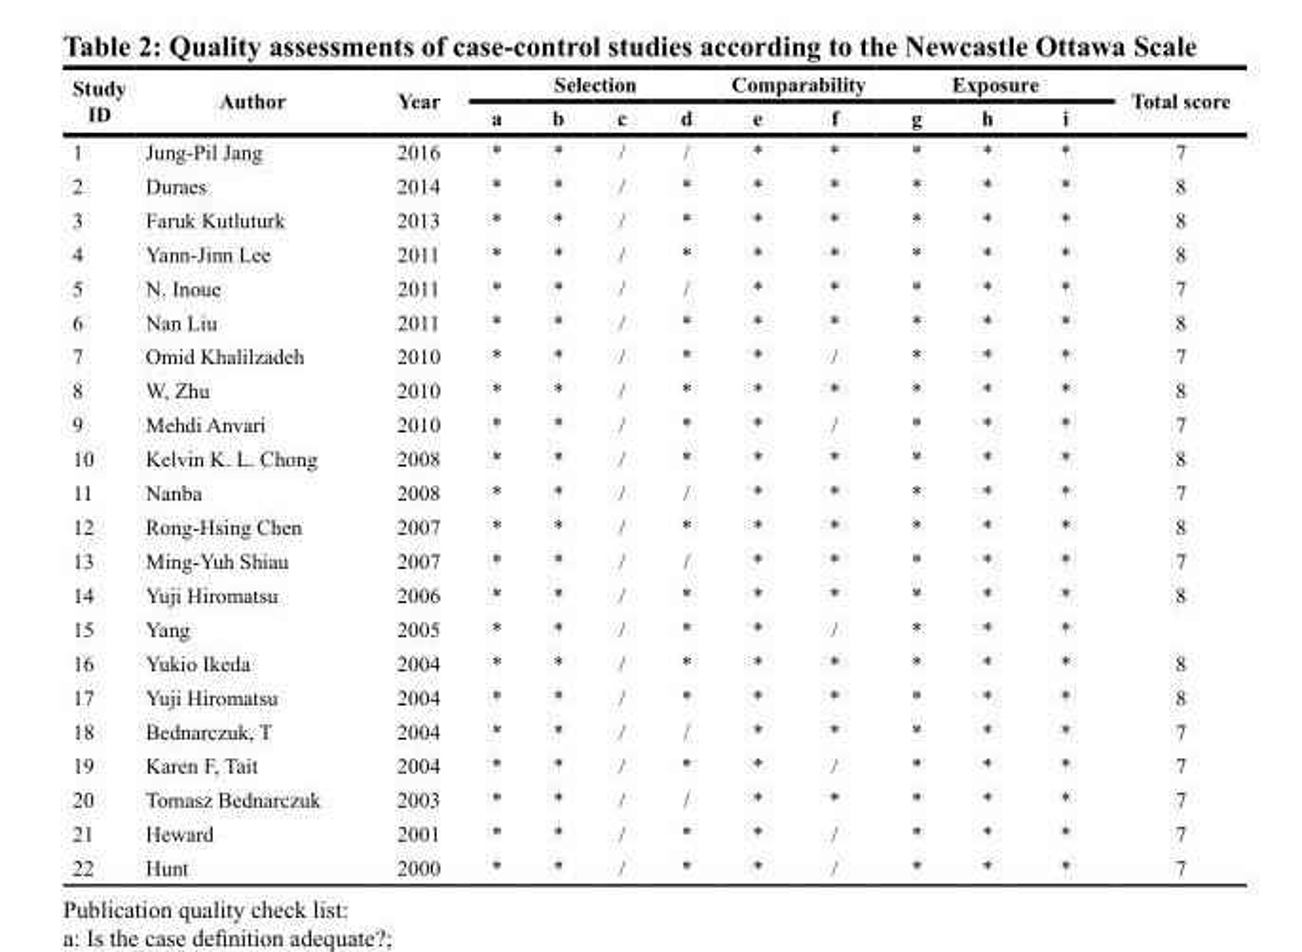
<table><thead><tr><td rowspan="2">Study ID</td><td rowspan="2">Author</td><td rowspan="2">Year</td><td colspan="4">Selection</td><td colspan="2">Comparability</td><td colspan="3">Exposure</td><td rowspan="2">Total score</td></tr><tr><td>a</td><td>b</td><td>c</td><td>d</td><td>e</td><td>f</td><td>g</td><td>h</td><td>i</td></tr></thead><tbody><tr><td>1</td><td>Jung-Pil Jang</td><td>2016</td><td>*</td><td>*</td><td>/</td><td>/</td><td>*</td><td>*</td><td>*</td><td>*</td><td>*</td><td>7</td></tr><tr><td>2</td><td>Duraes</td><td>2014</td><td>*</td><td>*</td><td>/</td><td>*</td><td>*</td><td>*</td><td>*</td><td>*</td><td>*</td><td>8</td></tr><tr><td>3</td><td>Faruk Kutluturk</td><td>2013</td><td>*</td><td>*</td><td>/</td><td>*</td><td>*</td><td>*</td><td>*</td><td>*</td><td>*</td><td>8</td></tr><tr><td>4</td><td>Yann-Jinn Lee</td><td>2011</td><td>*</td><td>*</td><td>/</td><td>*</td><td>*</td><td>*</td><td>*</td><td>*</td><td>*</td><td>8</td></tr><tr><td>5</td><td>N. Inoue</td><td>2011</td><td>*</td><td>*</td><td>/</td><td>/</td><td>*</td><td>*</td><td>*</td><td>*</td><td>*</td><td>7</td></tr><tr><td>6</td><td>Nan Liu</td><td>2011</td><td>*</td><td>*</td><td>/</td><td>*</td><td>*</td><td>*</td><td>*</td><td>*</td><td>*</td><td>8</td></tr><tr><td>7</td><td>Omid Khalilzadeh</td><td>2010</td><td>*</td><td>*</td><td>/</td><td>*</td><td>*</td><td>/</td><td>*</td><td>*</td><td>*</td><td>7</td></tr><tr><td>8</td><td>W, Zhu</td><td>2010</td><td>*</td><td>*</td><td>/</td><td>*</td><td>*</td><td>*</td><td>*</td><td>*</td><td>*</td><td>8</td></tr><tr><td>9</td><td>Mehdi Anvari</td><td>2010</td><td>*</td><td>*</td><td>/</td><td>*</td><td>*</td><td>/</td><td>*</td><td>*</td><td>*</td><td>7</td></tr><tr><td>10</td><td>Kelvin K. L. Chong</td><td>2008</td><td>*</td><td>*</td><td>/</td><td>*</td><td>*</td><td>*</td><td>*</td><td>*</td><td>*</td><td>8</td></tr><tr><td>11</td><td>Nanba</td><td>2008</td><td>*</td><td>*</td><td>/</td><td>/</td><td>*</td><td>*</td><td>*</td><td>*</td><td>*</td><td>7</td></tr><tr><td>12</td><td>Rong-Hsing Chen</td><td>2007</td><td>*</td><td>*</td><td>/</td><td>*</td><td>*</td><td>*</td><td>*</td><td>*</td><td>*</td><td>8</td></tr><tr><td>13</td><td>Ming-Yuh Shiau</td><td>2007</td><td>*</td><td>*</td><td>/</td><td>/</td><td>*</td><td>*</td><td>*</td><td>*</td><td>*</td><td>7</td></tr><tr><td>14</td><td>Yuji Hiromatsu</td><td>2006</td><td>*</td><td>*</td><td>/</td><td>*</td><td>*</td><td>*</td><td>*</td><td>*</td><td>*</td><td>8</td></tr><tr><td>15</td><td>Yang</td><td>2005</td><td>*</td><td>*</td><td>/</td><td>*</td><td>*</td><td>/</td><td>*</td><td>*</td><td>*</td><td></td></tr><tr><td>16</td><td>Yukio Ikeda</td><td>2004</td><td>*</td><td>*</td><td>/</td><td>*</td><td>*</td><td>*</td><td>*</td><td>*</td><td>*</td><td>8</td></tr><tr><td>17</td><td>Yuji Hiromatsu</td><td>2004</td><td>*</td><td>*</td><td>/</td><td>*</td><td>*</td><td>*</td><td>*</td><td>*</td><td>*</td><td>8</td></tr><tr><td>18</td><td>Bednarczuk, T</td><td>2004</td><td>*</td><td>*</td><td>/</td><td>/</td><td>*</td><td>*</td><td>*</td><td>*</td><td>*</td><td>7</td></tr><tr><td>19</td><td>Karen F, Tait</td><td>2004</td><td>*</td><td>*</td><td>/</td><td>*</td><td>*</td><td>/</td><td>*</td><td>*</td><td>*</td><td>7</td></tr><tr><td>20</td><td>Tomasz Bednarczuk</td><td>2003</td><td>*</td><td>*</td><td>/</td><td>/</td><td>*</td><td>*</td><td>*</td><td>*</td><td>*</td><td>7</td></tr><tr><td>21</td><td>Heward</td><td>2001</td><td>*</td><td>*</td><td>/</td><td>*</td><td>*</td><td>/</td><td>*</td><td>*</td><td>*</td><td>7</td></tr><tr><td>22</td><td>Hunt</td><td>2000</td><td>*</td><td>*</td><td>/</td><td>*</td><td>*</td><td>/</td><td>*</td><td>*</td><td>*</td><td>7</td></tr></tbody></table>